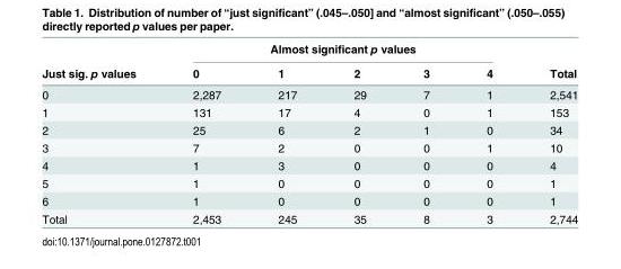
<table><thead><tr><td rowspan="2">Just sig. p values</td><td colspan="5">Almost significant p values</td><td rowspan="2">Total</td></tr><tr><td>0</td><td>1</td><td>2</td><td>3</td><td>4</td></tr></thead><tbody><tr><td>0</td><td>2,287</td><td>217</td><td>29</td><td>7</td><td>1</td><td>2,541</td></tr><tr><td>1</td><td>131</td><td>17</td><td>4</td><td>0</td><td>1</td><td>153</td></tr><tr><td>2</td><td>25</td><td>6</td><td>2</td><td>1</td><td>0</td><td>34</td></tr><tr><td>3</td><td>7</td><td>2</td><td>0</td><td>0</td><td>1</td><td>10</td></tr><tr><td>4</td><td>1</td><td>3</td><td>0</td><td>0</td><td>0</td><td>4</td></tr><tr><td>5</td><td>1</td><td>0</td><td>0</td><td>0</td><td>0</td><td>1</td></tr><tr><td>6</td><td>1</td><td>0</td><td>0</td><td>0</td><td>0</td><td>1</td></tr><tr><td>Total</td><td>2,453</td><td>245</td><td>35</td><td>8</td><td>3</td><td>2,744</td></tr></tbody></table>